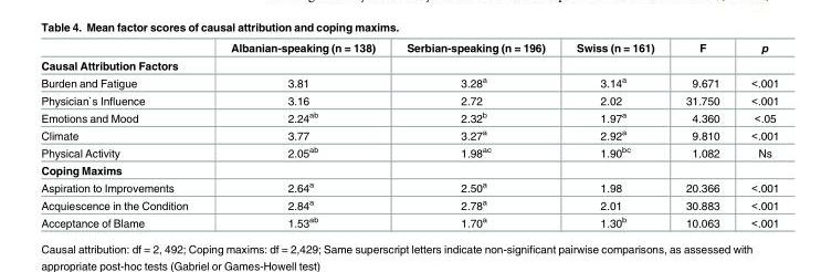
<table><thead><tr><td></td><td>Albanian-speaking (n = 138)</td><td>Serbian-speaking (n = 196)</td><td>Swiss (n = 161)</td><td>F</td><td>p</td></tr></thead><tbody><tr><td colspan="6">Causal Attribution Factors</td></tr><tr><td>Burden and Fatigue</td><td>3.81</td><td>3.28<sup>a</sup></td><td>3.14<sup>a</sup></td><td>9.671</td><td>&lt;.001</td></tr><tr><td>Physician`s Influence</td><td>3.16</td><td>2.72</td><td>2.02</td><td>31.750</td><td>&lt;.001</td></tr><tr><td>Emotions and Mood</td><td>2.24<sup>ab</sup></td><td>2.32<sup>b</sup></td><td>1.97<sup>a</sup></td><td>4.360</td><td>&lt;.05</td></tr><tr><td>Climate</td><td>3.77</td><td>3.27<sup>a</sup></td><td>2.92<sup>a</sup></td><td>9.810</td><td>&lt;.001</td></tr><tr><td>Physical Activity</td><td>2.05<sup>ab</sup></td><td>1.98<sup>ac</sup></td><td>1.90<sup>bc</sup></td><td>1.082</td><td>Ns</td></tr><tr><td colspan="6">Coping Maxims</td></tr><tr><td>Aspiration to Improvements</td><td>2.64<sup>a</sup></td><td>2.50<sup>a</sup></td><td>1.98</td><td>20.366</td><td>&lt;.001</td></tr><tr><td>Acquiescence in the Condition</td><td>2.84<sup>a</sup></td><td>2.78<sup>a</sup></td><td>2.01</td><td>30.883</td><td>&lt;.001</td></tr><tr><td>Acceptance of Blame</td><td>1.53<sup>ab</sup></td><td>1.70<sup>a</sup></td><td>1.30<sup>b</sup></td><td>10.063</td><td>&lt;.001</td></tr></tbody></table>